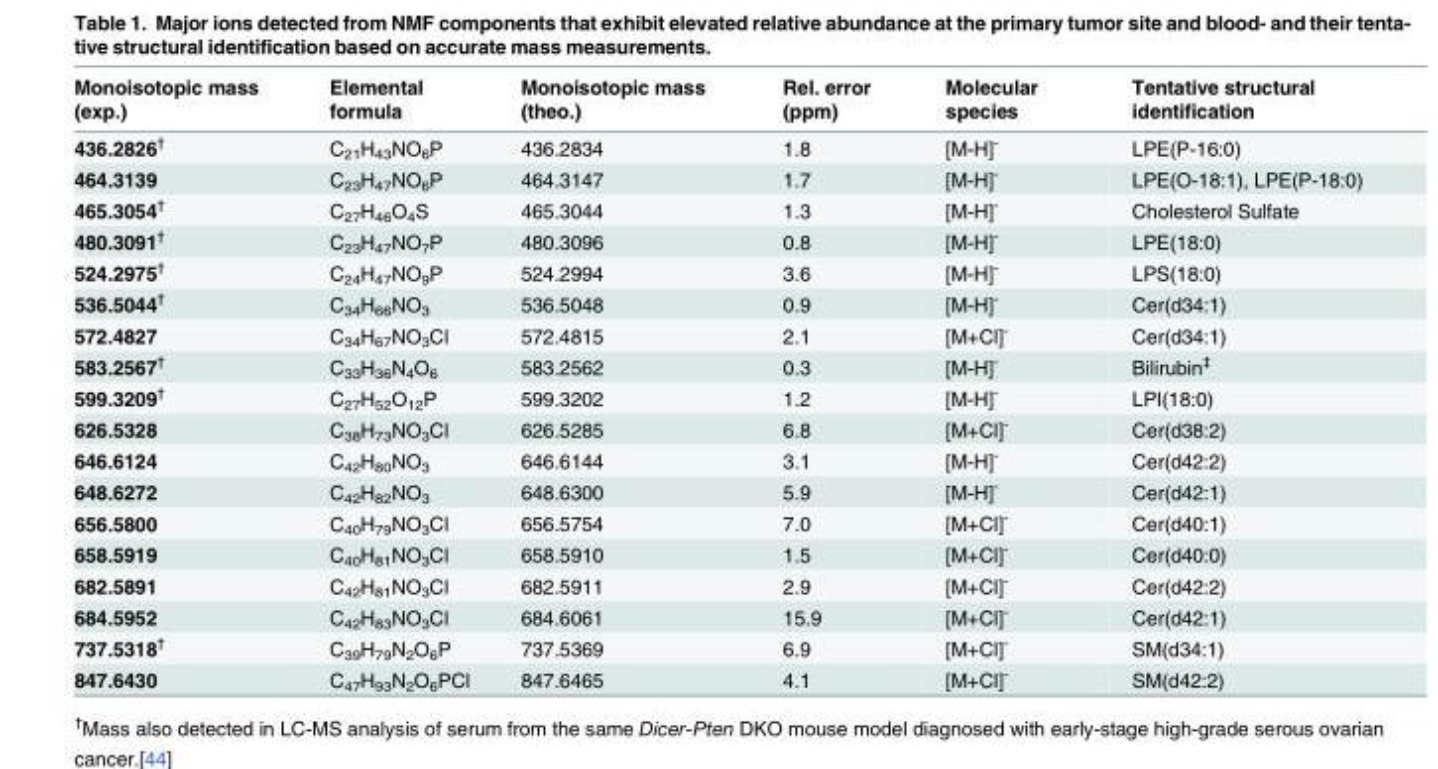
<table><thead><tr><td>Monoisotopic mass (exp.)</td><td>Elemental formula</td><td>Monoisotopic mass (theo.)</td><td>Rel. error (ppm)</td><td>Molecular species</td><td>Tentative structural identification</td></tr></thead><tbody><tr><td>436.2826<sup>†</sup></td><td>C<sub>21</sub>H<sub>43</sub>NO<sub>6</sub>P</td><td>436.2834</td><td>1.8</td><td>[M-H]<sup>-</sup></td><td>LPE(P-16:0)</td></tr><tr><td>464.3139</td><td>C<sub>23</sub>H<sub>47</sub>NO<sub>6</sub>P</td><td>464.3147</td><td>1.7</td><td>[M-H]<sup>-</sup></td><td>LPE(O-18:1), LPE(P-18:0)</td></tr><tr><td>465.3054<sup>†</sup></td><td>C<sub>27</sub>H<sub>46</sub>O<sub>4</sub>S</td><td>465.3044</td><td>1.3</td><td>[M-H]<sup>-</sup></td><td>Cholesterol Sulfate</td></tr><tr><td>480.3091<sup>†</sup></td><td>C<sub>23</sub>H<sub>47</sub>NO<sub>7</sub>P</td><td>480.3096</td><td>0.8</td><td>[M-H]<sup>-</sup></td><td>LPE(18:0)</td></tr><tr><td>524.2975<sup>†</sup></td><td>C<sub>24</sub>H<sub>47</sub>NO<sub>9</sub>P</td><td>524.2994</td><td>3.6</td><td>[M-H]<sup>-</sup></td><td>LPS(18:0)</td></tr><tr><td>536.5044<sup>†</sup></td><td>C<sub>34</sub>H<sub>66</sub>NO<sub>3</sub></td><td>536.5048</td><td>0.9</td><td>[M-H]<sup>-</sup></td><td>Cer(d34:1)</td></tr><tr><td>572.4827</td><td>C<sub>34</sub>H<sub>67</sub>NO<sub>3</sub>Cl</td><td>572.4815</td><td>2.1</td><td>[M+Cl]<sup>-</sup></td><td>Cer(d34:1)</td></tr><tr><td>583.2567<sup>†</sup></td><td>C<sub>33</sub>H<sub>36</sub>N<sub>4</sub>O<sub>6</sub></td><td>583.2562</td><td>0.3</td><td>[M-H]<sup>-</sup></td><td>Bilirubin<sup>‡</sup></td></tr><tr><td>599.3209<sup>†</sup></td><td>C<sub>27</sub>H<sub>52</sub>O<sub>12</sub>P</td><td>599.3202</td><td>1.2</td><td>[M-H]<sup>-</sup></td><td>LPI(18:0)</td></tr><tr><td>626.5328</td><td>C<sub>38</sub>H<sub>73</sub>NO<sub>3</sub>Cl</td><td>626.5285</td><td>6.8</td><td>[M+Cl]<sup>-</sup></td><td>Cer(d38:2)</td></tr><tr><td>646.6124</td><td>C<sub>42</sub>H<sub>80</sub>NO<sub>3</sub></td><td>646.6144</td><td>3.1</td><td>[M-H]<sup>-</sup></td><td>Cer(d42:2)</td></tr><tr><td>648.6272</td><td>C<sub>42</sub>H<sub>82</sub>NO<sub>3</sub></td><td>648.6300</td><td>5.9</td><td>[M-H]<sup>-</sup></td><td>Cer(d42:1)</td></tr><tr><td>656.5800</td><td>C<sub>40</sub>H<sub>79</sub>NO<sub>3</sub>Cl</td><td>656.5754</td><td>7.0</td><td>[M+Cl]<sup>-</sup></td><td>Cer(d40:1)</td></tr><tr><td>658.5919</td><td>C<sub>40</sub>H<sub>81</sub>NO<sub>3</sub>Cl</td><td>658.5910</td><td>1.5</td><td>[M+Cl]<sup>-</sup></td><td>Cer(d40:0)</td></tr><tr><td>682.5891</td><td>C<sub>42</sub>H<sub>81</sub>NO<sub>3</sub>Cl</td><td>682.5911</td><td>2.9</td><td>[M+Cl]<sup>-</sup></td><td>Cer(d42:2)</td></tr><tr><td>684.5952</td><td>C<sub>42</sub>H<sub>83</sub>NO<sub>3</sub>Cl</td><td>684.6061</td><td>15.9</td><td>[M+Cl]<sup>-</sup></td><td>Cer(d42:1)</td></tr><tr><td>737.5318<sup>†</sup></td><td>C<sub>39</sub>H<sub>79</sub>N<sub>2</sub>O<sub>6</sub>P</td><td>737.5369</td><td>6.9</td><td>[M+Cl]<sup>-</sup></td><td>SM(d34:1)</td></tr><tr><td>847.6430</td><td>C<sub>47</sub>H<sub>93</sub>N<sub>2</sub>O<sub>6</sub>PCl</td><td>847.6465</td><td>4.1</td><td>[M+Cl]<sup>-</sup></td><td>SM(d42:2)</td></tr></tbody></table>